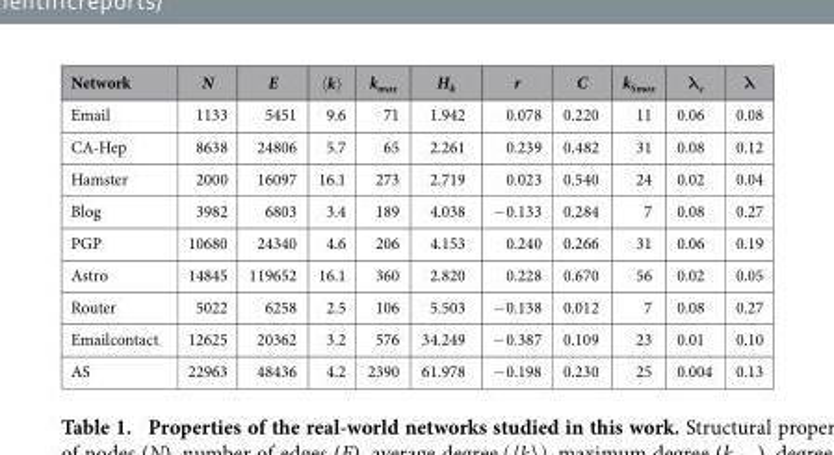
<table><thead><tr><td>Network</td><td>N</td><td>E</td><td>k</td><td>k<sub>max</sub></td><td>H<sub>k</sub></td><td>r</td><td>C</td><td>k<sub>Smax</sub></td><td>λ<sub>c</sub></td><td>λ</td></tr></thead><tbody><tr><td>Email</td><td>1133</td><td>5451</td><td>9.6</td><td>71</td><td>1.942</td><td>0.078</td><td>0.220</td><td>11</td><td>0.06</td><td>0.08</td></tr><tr><td>CA-Hep</td><td>8638</td><td>24806</td><td>5.7</td><td>65</td><td>2.261</td><td>0.239</td><td>0.482</td><td>31</td><td>0.08</td><td>0.12</td></tr><tr><td>Hamster</td><td>2000</td><td>16097</td><td>16.1</td><td>273</td><td>2.719</td><td>0.023</td><td>0.540</td><td>24</td><td>0.02</td><td>0.04</td></tr><tr><td>Blog</td><td>3982</td><td>6803</td><td>3.4</td><td>189</td><td>4.038</td><td>− 0.133</td><td>0.284</td><td>7</td><td>0.08</td><td>0.27</td></tr><tr><td>PGP</td><td>10680</td><td>24340</td><td>4.6</td><td>206</td><td>4.153</td><td>0.240</td><td>0.266</td><td>31</td><td>0.06</td><td>0.19</td></tr><tr><td>Astro</td><td>14845</td><td>119652</td><td>16.1</td><td>360</td><td>2.820</td><td>0.228</td><td>0.670</td><td>56</td><td>0.02</td><td>0.05</td></tr><tr><td>Router</td><td>5022</td><td>6258</td><td>2.5</td><td>106</td><td>5.503</td><td>− 0.138</td><td>0.012</td><td>7</td><td>0.08</td><td>0.27</td></tr><tr><td>Emailcontact</td><td>12625</td><td>20362</td><td>3.2</td><td>576</td><td>34.249</td><td>− 0.387</td><td>0.109</td><td>23</td><td>0.01</td><td>0.10</td></tr><tr><td>AS</td><td>22963</td><td>48436</td><td>4.2</td><td>2390</td><td>61.978</td><td>− 0.198</td><td>0.230</td><td>25</td><td>0.004</td><td>0.13</td></tr></tbody></table>